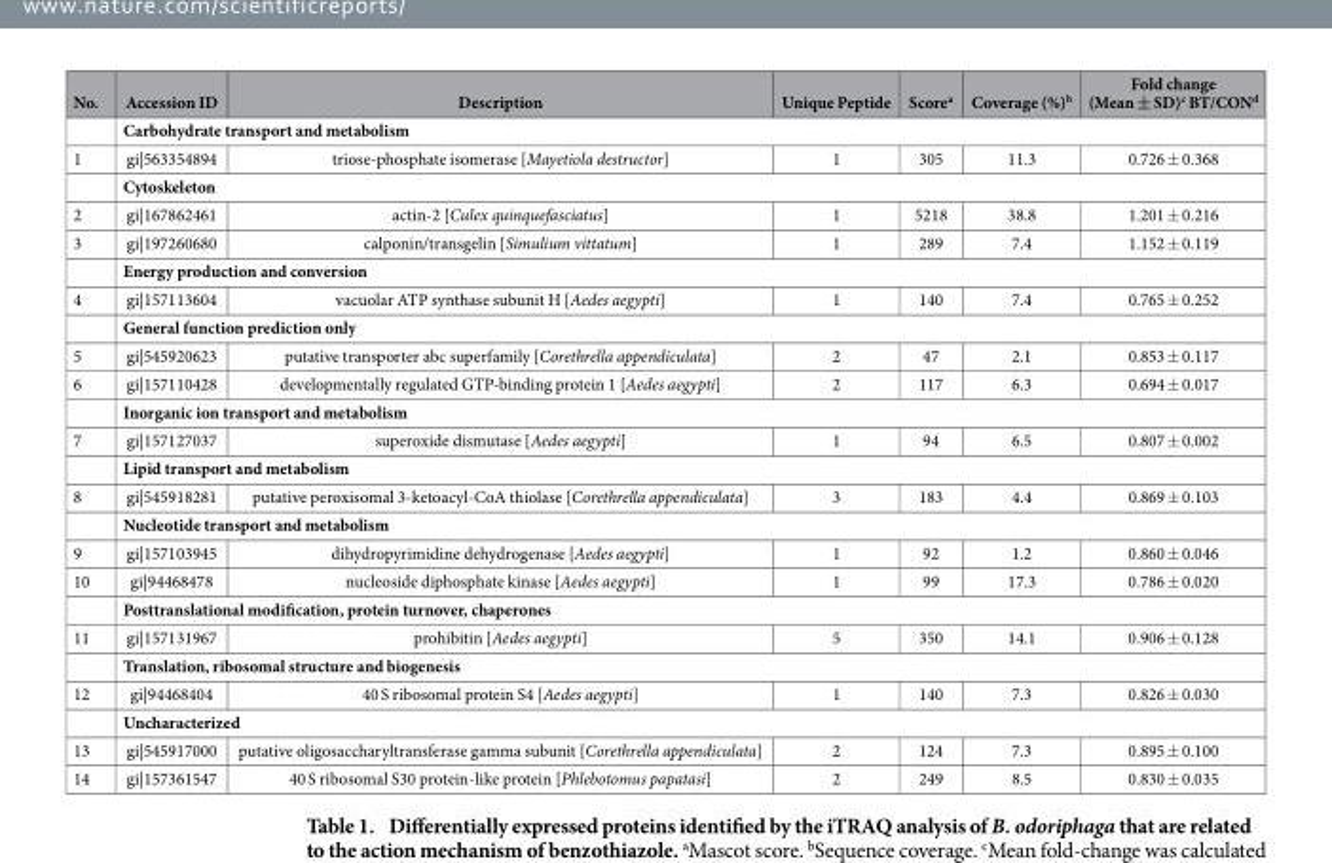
<table><thead><tr><td>No.</td><td>Accession ID</td><td>Description</td><td>Unique Peptide</td><td>Score<sup>a</sup></td><td>Coverage (%)<sup>b</sup></td><td>Fold change (Mean ± SD)<sup>c</sup> BT/CON<sup>d</sup></td></tr></thead><tbody><tr><td></td><td colspan="6">Carbohydrate transport and metabolism</td></tr><tr><td rowspan="2">1</td><td>gi|563354894</td><td>triose-phosphate isomerase [Mayetiola destructor]</td><td>1</td><td>305</td><td>11.3</td><td>0.726 ± 0.368</td></tr><tr><td colspan="6">Cytoskeleton</td></tr><tr><td>2</td><td>gi|167862461</td><td>actin-2 [Culex quinquefasciatus]</td><td>1</td><td>5218</td><td>38.8</td><td>1.201 ± 0.216</td></tr><tr><td rowspan="2">3</td><td>gi|197260680</td><td>calponin/transgelin [Simulium vittatum]</td><td>1</td><td>289</td><td>7.4</td><td>1.152 ± 0.119</td></tr><tr><td colspan="6">Energy production and conversion</td></tr><tr><td rowspan="2">4</td><td>gi|157113604</td><td>vacuolar ATP synthase subunit H [Aedes aegypti]</td><td>1</td><td>140</td><td>7.4</td><td>0.765 ± 0.252</td></tr><tr><td colspan="6">General function prediction only</td></tr><tr><td>5</td><td>gi|545920623</td><td>putative transporter abc superfamily [Corethrella appendiculata]</td><td>2</td><td>47</td><td>2.1</td><td>0.853 ± 0.117</td></tr><tr><td rowspan="2">6</td><td>gi|157110428</td><td>developmentally regulated GTP-binding protein 1 [Aedes aegypti]</td><td>2</td><td>117</td><td>6.3</td><td>0.694 ± 0.017</td></tr><tr><td colspan="6">Inorganic ion transport and metabolism</td></tr><tr><td rowspan="2">7</td><td>gi|157127037</td><td>superoxide dismutase [Aedes aegypti]</td><td>1</td><td>94</td><td>6.5</td><td>0.807 ± 0.002</td></tr><tr><td colspan="6">Lipid transport and metabolism</td></tr><tr><td rowspan="2">8</td><td>gi|545918281</td><td>putative peroxisomal 3-ketoacyl-CoA thiolase [Corethrella appendiculata]</td><td>3</td><td>183</td><td>4.4</td><td>0.869 ± 0.103</td></tr><tr><td colspan="6">Nucleotide transport and metabolism</td></tr><tr><td>9</td><td>gi|157103945</td><td>dihydropyrimidine dehydrogenase [Aedes aegypti]</td><td>1</td><td>92</td><td>1.2</td><td>0.860 ± 0.046</td></tr><tr><td rowspan="2">10</td><td>gi|94468478</td><td>nucleoside diphosphate kinase [Aedes aegypti]</td><td>1</td><td>99</td><td>17.3</td><td>0.786 ± 0.020</td></tr><tr><td colspan="6">Posttranslational modification, protein turnover, chaperones</td></tr><tr><td rowspan="2">11</td><td>gi|157131967</td><td>prohibitin [Aedes aegypti]</td><td>5</td><td>350</td><td>14.1</td><td>0.906 ± 0.128</td></tr><tr><td colspan="6">Translation, ribosomal structure and biogenesis</td></tr><tr><td rowspan="2">12</td><td>gi|94468404</td><td>40 S ribosomal protein S4 [Aedes aegypti]</td><td>1</td><td>140</td><td>7.3</td><td>0.826 ± 0.030</td></tr><tr><td colspan="6">Uncharacterized</td></tr><tr><td>13</td><td>gi|545917000</td><td>putative oligosaccharyltransferase gamma subunit [Corethrella appendiculata]</td><td>2</td><td>124</td><td>7.3</td><td>0.895 ± 0.100</td></tr><tr><td>14</td><td>gi|157361547</td><td>40 S ribosomal S30 protein-like protein [Phlebotomus papatasi]</td><td>2</td><td>249</td><td>8.5</td><td>0.830 ± 0.035</td></tr></tbody></table>